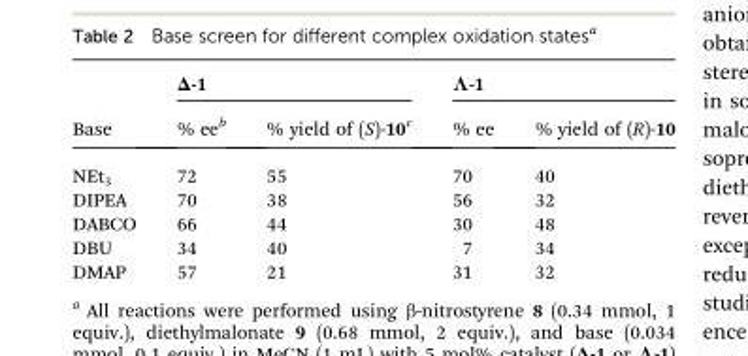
<table><thead><tr><td rowspan="2">Base</td><td colspan="2">Δ-1</td><td colspan="2">Λ-1</td></tr><tr><td>% ee<sup>b</sup></td><td>% yield of (S)-10<sup>c</sup></td><td>% ee</td><td>% yield of (R)-10</td></tr></thead><tbody><tr><td>NEt<sub>3</sub></td><td>72</td><td>55</td><td>70</td><td>40</td></tr><tr><td>DIPEA</td><td>70</td><td>38</td><td>56</td><td>32</td></tr><tr><td>DABCO</td><td>66</td><td>44</td><td>30</td><td>48</td></tr><tr><td>DBU</td><td>34</td><td>40</td><td>7</td><td>34</td></tr><tr><td>DMAP</td><td>57</td><td>21</td><td>31</td><td>32</td></tr></tbody></table>